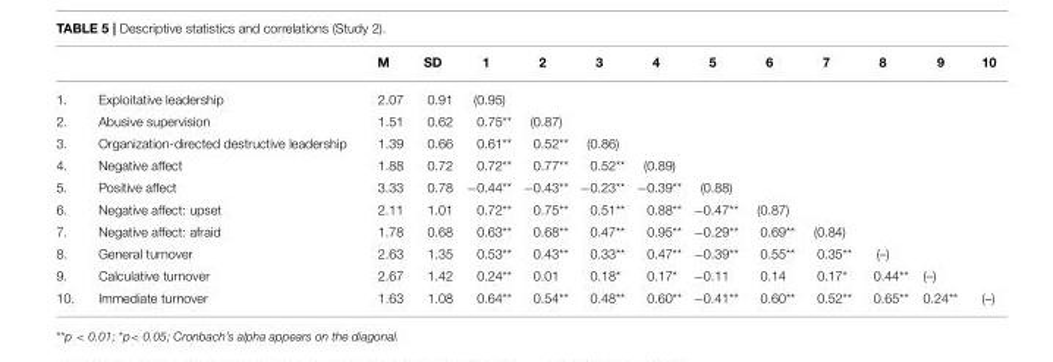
<table><thead><tr><td></td><td></td><td>M</td><td>SD</td><td>1</td><td>2</td><td>3</td><td>4</td><td>5</td><td>6</td><td>7</td><td>8</td><td>9</td><td>10</td></tr></thead><tbody><tr><td>1.</td><td>Exploitative leadership</td><td>2.07</td><td>0.91</td><td>(0.95)</td><td></td><td></td><td></td><td></td><td></td><td></td><td></td><td></td><td></td></tr><tr><td>2.</td><td>Abusive supervision</td><td>1.51</td><td>0.62</td><td>0.75**</td><td>(0.87)</td><td></td><td></td><td></td><td></td><td></td><td></td><td></td><td></td></tr><tr><td>3.</td><td>Organization-directed destructive leadership</td><td>1.39</td><td>0.66</td><td>0.61**</td><td>0.52**</td><td>(0.86)</td><td></td><td></td><td></td><td></td><td></td><td></td><td></td></tr><tr><td>4.</td><td>Negative affect</td><td>1.88</td><td>0.72</td><td>0.72**</td><td>0.77**</td><td>0.52**</td><td>(0.89)</td><td></td><td></td><td></td><td></td><td></td><td></td></tr><tr><td>5.</td><td>Positive affect</td><td>3.33</td><td>0.78</td><td>−0.44**</td><td>−0.43**</td><td>−0.23**</td><td>−0.39**</td><td>(0.88)</td><td></td><td></td><td></td><td></td><td></td></tr><tr><td>6.</td><td>Negative affect: upset</td><td>2.11</td><td>1.01</td><td>0.72**</td><td>0.75**</td><td>0.51**</td><td>0.88**</td><td>−0.47**</td><td>(0.87)</td><td></td><td></td><td></td><td></td></tr><tr><td>7.</td><td>Negative affect: afraid</td><td>1.78</td><td>0.68</td><td>0.63**</td><td>0.68**</td><td>0.47**</td><td>0.95**</td><td>−0.29**</td><td>0.69**</td><td>(0.84)</td><td></td><td></td><td></td></tr><tr><td>8.</td><td>General turnover</td><td>2.63</td><td>1.35</td><td>0.53**</td><td>0.43**</td><td>0.33**</td><td>0.47**</td><td>−0.39**</td><td>0.55**</td><td>0.35**</td><td>(–)</td><td></td><td></td></tr><tr><td>9.</td><td>Calculative turnover</td><td>2.67</td><td>1.42</td><td>0.24**</td><td>0.01</td><td>0.18*</td><td>0.17*</td><td>−0.11</td><td>0.14</td><td>0.17*</td><td>0.44**</td><td>(–)</td><td></td></tr><tr><td>10.</td><td>Immediate turnover</td><td>1.63</td><td>1.08</td><td>0.64**</td><td>0.54**</td><td>0.48**</td><td>0.60**</td><td>−0.41**</td><td>0.60**</td><td>0.52**</td><td>0.65**</td><td>0.24**</td><td>(–)</td></tr></tbody></table>